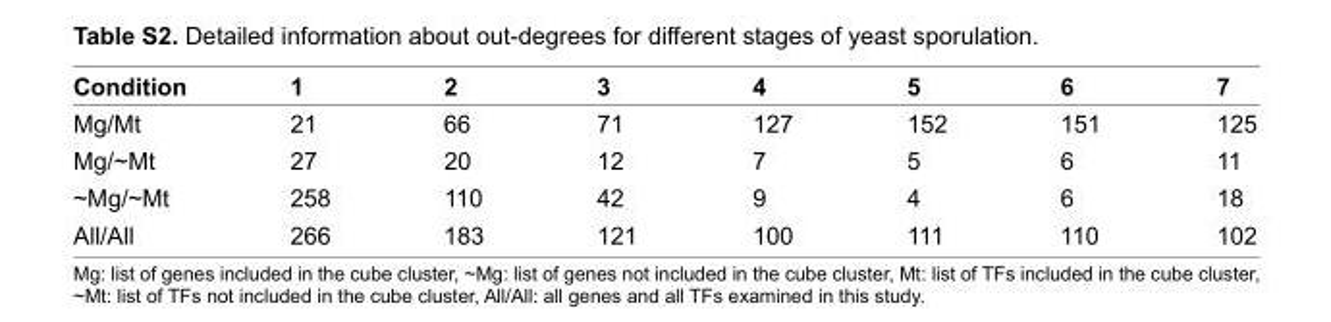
<table><thead><tr><td>Condition</td><td>1</td><td>2</td><td>3</td><td>4</td><td>5</td><td>6</td><td>7</td></tr></thead><tbody><tr><td>Mg/Mt</td><td>21</td><td>66</td><td>71</td><td>127</td><td>152</td><td>151</td><td>125</td></tr><tr><td>Mg/~Mt</td><td>27</td><td>20</td><td>12</td><td>7</td><td>5</td><td>6</td><td>11</td></tr><tr><td>~Mg/~Mt</td><td>258</td><td>110</td><td>42</td><td>9</td><td>4</td><td>6</td><td>18</td></tr><tr><td>All/All</td><td>266</td><td>183</td><td>121</td><td>100</td><td>111</td><td>110</td><td>102</td></tr></tbody></table>